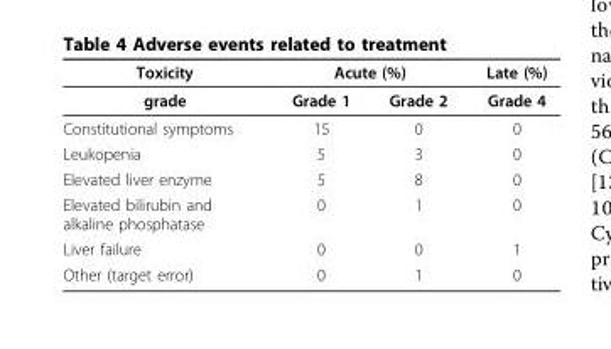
<table><thead><tr><td rowspan="2">Toxicity grade</td><td colspan="2">Acute (%)</td><td rowspan="2">Late (%) Grade 4</td></tr><tr><td>Grade 1</td><td>Grade 2</td></tr></thead><tbody><tr><td>Constitutional symptoms</td><td>15</td><td>0</td><td>0</td></tr><tr><td>Leukopenia</td><td>5</td><td>3</td><td>0</td></tr><tr><td>Elevated liver enzyme</td><td>5</td><td>8</td><td>0</td></tr><tr><td>Elevated bilirubin and alkaline phosphatase</td><td>0</td><td>1</td><td>0</td></tr><tr><td>Liver failure</td><td>0</td><td>0</td><td>1</td></tr><tr><td>Other (target error)</td><td>0</td><td>1</td><td>0</td></tr></tbody></table>